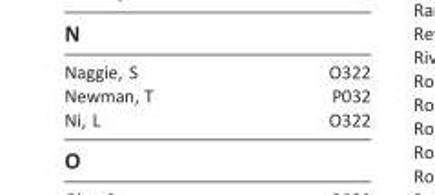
<table><tbody><tr><td>Naggie, S</td><td>O322</td></tr><tr><td>Newman, T</td><td>P032</td></tr><tr><td>Ni, L</td><td>O322</td></tr></tbody></table>